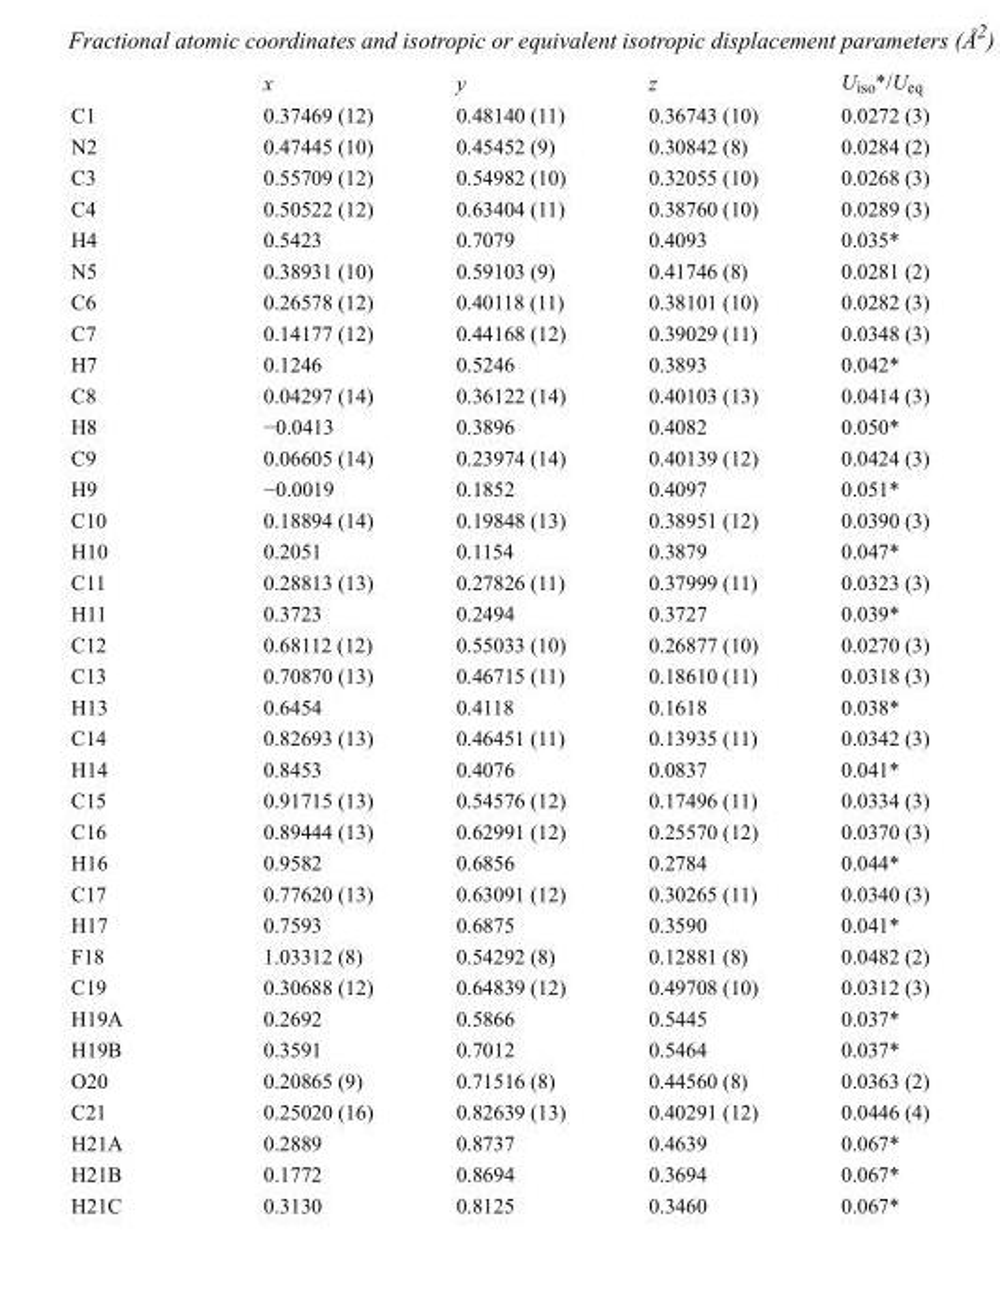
<table><thead><tr><td></td><td>x</td><td>y</td><td>z</td><td>U<sub>iso</sub>*/U<sub>eq</sub></td></tr></thead><tbody><tr><td>C1</td><td>0.37469 (12)</td><td>0.48140 (11)</td><td>0.36743 (10)</td><td>0.0272 (3)</td></tr><tr><td>N2</td><td>0.47445 (10)</td><td>0.45452 (9)</td><td>0.30842 (8)</td><td>0.0284 (2)</td></tr><tr><td>C3</td><td>0.55709 (12)</td><td>0.54982 (10)</td><td>0.32055 (10)</td><td>0.0268 (3)</td></tr><tr><td>C4</td><td>0.50522 (12)</td><td>0.63404 (11)</td><td>0.38760 (10)</td><td>0.0289 (3)</td></tr><tr><td>H4</td><td>0.5423</td><td>0.7079</td><td>0.4093</td><td>0.035*</td></tr><tr><td>N5</td><td>0.38931 (10)</td><td>0.59103 (9)</td><td>0.41746 (8)</td><td>0.0281 (2)</td></tr><tr><td>C6</td><td>0.26578 (12)</td><td>0.40118 (11)</td><td>0.38101 (10)</td><td>0.0282 (3)</td></tr><tr><td>C7</td><td>0.14177 (12)</td><td>0.44168 (12)</td><td>0.39029 (11)</td><td>0.0348 (3)</td></tr><tr><td>H7</td><td>0.1246</td><td>0.5246</td><td>0.3893</td><td>0.042*</td></tr><tr><td>C8</td><td>0.04297 (14)</td><td>0.36122 (14)</td><td>0.40103 (13)</td><td>0.0414 (3)</td></tr><tr><td>H8</td><td>−0.0413</td><td>0.3896</td><td>0.4082</td><td>0.050*</td></tr><tr><td>C9</td><td>0.06605 (14)</td><td>0.23974 (14)</td><td>0.40139 (12)</td><td>0.0424 (3)</td></tr><tr><td>H9</td><td>−0.0019</td><td>0.1852</td><td>0.4097</td><td>0.051*</td></tr><tr><td>C10</td><td>0.18894 (14)</td><td>0.19848 (13)</td><td>0.38951 (12)</td><td>0.0390 (3)</td></tr><tr><td>H10</td><td>0.2051</td><td>0.1154</td><td>0.3879</td><td>0.047*</td></tr><tr><td>C11</td><td>0.28813 (13)</td><td>0.27826 (11)</td><td>0.37999 (11)</td><td>0.0323 (3)</td></tr><tr><td>H11</td><td>0.3723</td><td>0.2494</td><td>0.3727</td><td>0.039*</td></tr><tr><td>C12</td><td>0.68112 (12)</td><td>0.55033 (10)</td><td>0.26877 (10)</td><td>0.0270 (3)</td></tr><tr><td>C13</td><td>0.70870 (13)</td><td>0.46715 (11)</td><td>0.18610 (11)</td><td>0.0318 (3)</td></tr><tr><td>H13</td><td>0.6454</td><td>0.4118</td><td>0.1618</td><td>0.038*</td></tr><tr><td>C14</td><td>0.82693 (13)</td><td>0.46451 (11)</td><td>0.13935 (11)</td><td>0.0342 (3)</td></tr><tr><td>H14</td><td>0.8453</td><td>0.4076</td><td>0.0837</td><td>0.041*</td></tr><tr><td>C15</td><td>0.91715 (13)</td><td>0.54576 (12)</td><td>0.17496 (11)</td><td>0.0334 (3)</td></tr><tr><td>C16</td><td>0.89444 (13)</td><td>0.62991 (12)</td><td>0.25570 (12)</td><td>0.0370 (3)</td></tr><tr><td>H16</td><td>0.9582</td><td>0.6856</td><td>0.2784</td><td>0.044*</td></tr><tr><td>C17</td><td>0.77620 (13)</td><td>0.63091 (12)</td><td>0.30265 (11)</td><td>0.0340 (3)</td></tr><tr><td>H17</td><td>0.7593</td><td>0.6875</td><td>0.3590</td><td>0.041*</td></tr><tr><td>F18</td><td>1.03312 (8)</td><td>0.54292 (8)</td><td>0.12881 (8)</td><td>0.0482 (2)</td></tr><tr><td>C19</td><td>0.30688 (12)</td><td>0.64839 (12)</td><td>0.49708 (10)</td><td>0.0312 (3)</td></tr><tr><td>H19A</td><td>0.2692</td><td>0.5866</td><td>0.5445</td><td>0.037*</td></tr><tr><td>H19B</td><td>0.3591</td><td>0.7012</td><td>0.5464</td><td>0.037*</td></tr><tr><td>O20</td><td>0.20865 (9)</td><td>0.71516 (8)</td><td>0.44560 (8)</td><td>0.0363 (2)</td></tr><tr><td>C21</td><td>0.25020 (16)</td><td>0.82639 (13)</td><td>0.40291 (12)</td><td>0.0446 (4)</td></tr><tr><td>H21A</td><td>0.2889</td><td>0.8737</td><td>0.4639</td><td>0.067*</td></tr><tr><td>H21B</td><td>0.1772</td><td>0.8694</td><td>0.3694</td><td>0.067*</td></tr><tr><td>H21C</td><td>0.3130</td><td>0.8125</td><td>0.3460</td><td>0.067*</td></tr></tbody></table>